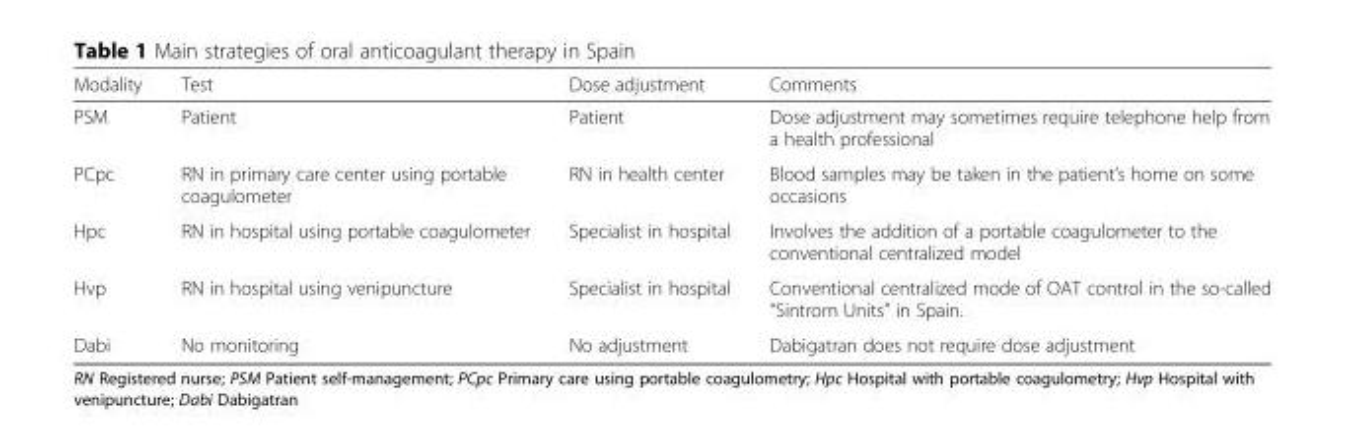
<table><thead><tr><td>Modality</td><td>Test</td><td>Dose adjustment</td><td>Comments</td></tr></thead><tbody><tr><td>PSM</td><td>Patient</td><td>Patient</td><td>Dose adjustment may sometimes require telephone help from a health professional</td></tr><tr><td>PCpc</td><td>RN in primary care center using portable coagulometer</td><td>RN in health center</td><td>Blood samples may be taken in the patient’s home on some occasions</td></tr><tr><td>Hpc</td><td>RN in hospital using portable coagulometer</td><td>Specialist in hospital</td><td>Involves the addition of a portable coagulometer to the conventional centralized model</td></tr><tr><td>Hvp</td><td>RN in hospital using venipuncture</td><td>Specialist in hospital</td><td>Conventional centralized mode of OAT control in the so-called “Sintrom Units” in Spain.</td></tr><tr><td>Dabi</td><td>No monitoring</td><td>No adjustment</td><td>Dabigatran does not require dose adjustment</td></tr></tbody></table>